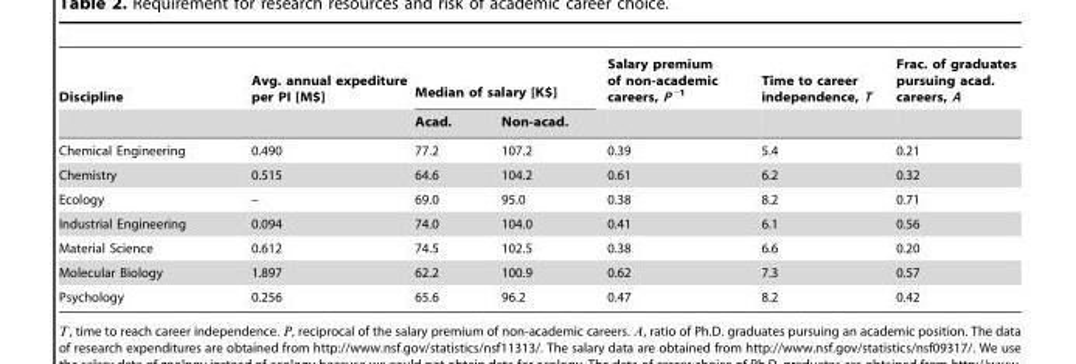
<table><thead><tr><td rowspan="2">Discipline</td><td rowspan="2">Avg. annual expediture per PI [M$]</td><td colspan="2">Median of salary [K$]</td><td rowspan="2">Salary premium of non-academic careers, P<sup>−1</sup></td><td rowspan="2">Time to career independence, T</td><td rowspan="2">Frac. of graduates pursuing acad. careers, A</td></tr><tr><td>Acad.</td><td>Non-acad.</td></tr></thead><tbody><tr><td>Chemical Engineering</td><td>0.490</td><td>77.2</td><td>107.2</td><td>0.39</td><td>5.4</td><td>0.21</td></tr><tr><td>Chemistry</td><td>0.515</td><td>64.6</td><td>104.2</td><td>0.61</td><td>6.2</td><td>0.32</td></tr><tr><td>Ecology</td><td>–</td><td>69.0</td><td>95.0</td><td>0.38</td><td>8.2</td><td>0.71</td></tr><tr><td>Industrial Engineering</td><td>0.094</td><td>74.0</td><td>104.0</td><td>0.41</td><td>6.1</td><td>0.56</td></tr><tr><td>Material Science</td><td>0.612</td><td>74.5</td><td>102.5</td><td>0.38</td><td>6.6</td><td>0.20</td></tr><tr><td>Molecular Biology</td><td>1.897</td><td>62.2</td><td>100.9</td><td>0.62</td><td>7.3</td><td>0.57</td></tr><tr><td>Psychology</td><td>0.256</td><td>65.6</td><td>96.2</td><td>0.47</td><td>8.2</td><td>0.42</td></tr></tbody></table>